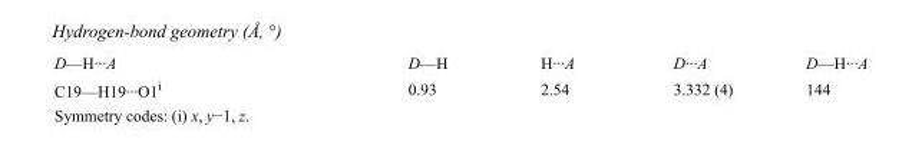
<table><tbody><tr><td>D—H···A</td><td>D—H</td><td>H···A</td><td>D···A</td><td>D—H···A</td></tr><tr><td>C19—H19···O1<sup>i</sup></td><td>0.93</td><td>2.54</td><td>3.332 (4)</td><td>144</td></tr></tbody></table>